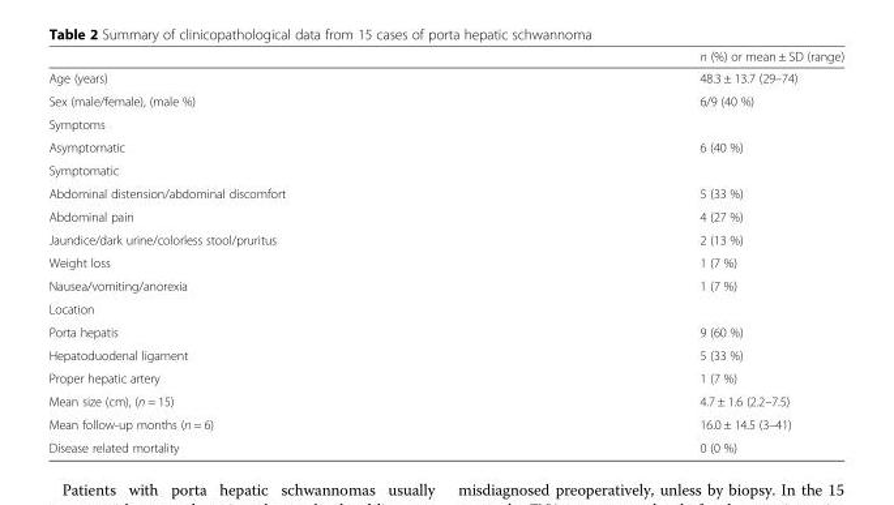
<table><thead><tr><td></td><td>n (%) or mean ± SD (range)</td></tr></thead><tbody><tr><td>Age (years)</td><td>48.3 ± 13.7 (29–74)</td></tr><tr><td>Sex (male/female), (male %)</td><td>6/9 (40 %)</td></tr><tr><td colspan="2">Symptoms</td></tr><tr><td>Asymptomatic</td><td>6 (40 %)</td></tr><tr><td colspan="2">Symptomatic</td></tr><tr><td>Abdominal distension/abdominal discomfort</td><td>5 (33 %)</td></tr><tr><td>Abdominal pain</td><td>4 (27 %)</td></tr><tr><td>Jaundice/dark urine/colorless stool/pruritus</td><td>2 (13 %)</td></tr><tr><td>Weight loss</td><td>1 (7 %)</td></tr><tr><td>Nausea/vomiting/anorexia</td><td>1 (7 %)</td></tr><tr><td colspan="2">Location</td></tr><tr><td>Porta hepatis</td><td>9 (60 %)</td></tr><tr><td>Hepatoduodenal ligament</td><td>5 (33 %)</td></tr><tr><td>Proper hepatic artery</td><td>1 (7 %)</td></tr><tr><td>Mean size (cm), (n = 15)</td><td>4.7 ± 1.6 (2.2–7.5)</td></tr><tr><td>Mean follow-up months (n = 6)</td><td>16.0 ± 14.5 (3–41)</td></tr><tr><td>Disease related mortality</td><td>0 (0 %)</td></tr></tbody></table>